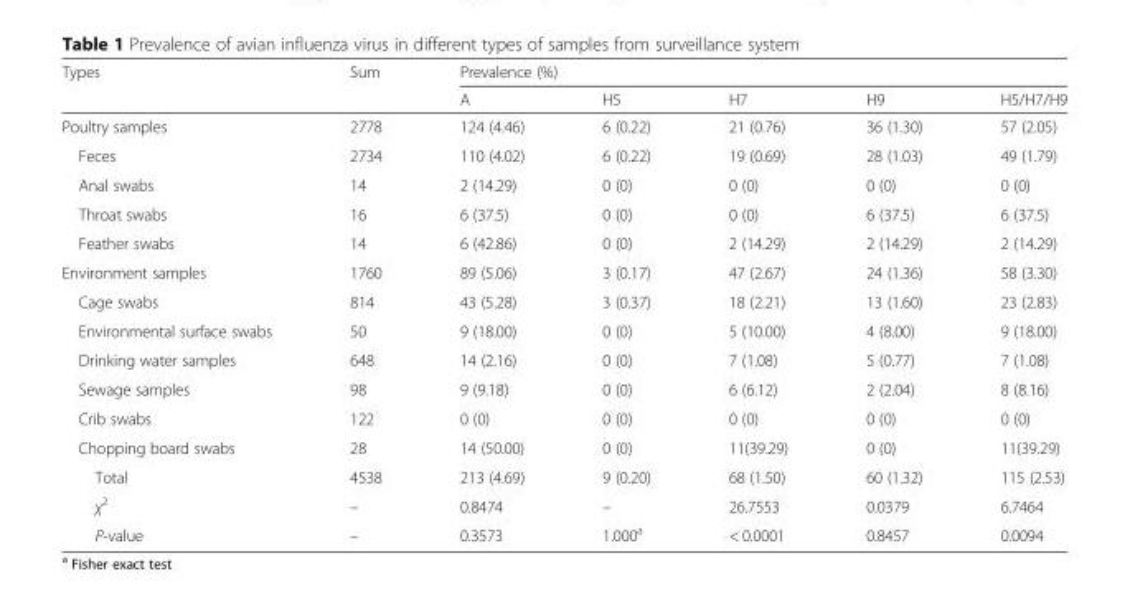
<table><thead><tr><td rowspan="2">Types</td><td rowspan="2">Sum</td><td colspan="5">Prevalence (%)</td></tr><tr><td>A</td><td>H5</td><td>H7</td><td>H9</td><td>H5/H7/H9</td></tr></thead><tbody><tr><td>Poultry samples</td><td>2778</td><td>124 (4.46)</td><td>6 (0.22)</td><td>21 (0.76)</td><td>36 (1.30)</td><td>57 (2.05)</td></tr><tr><td>Feces</td><td>2734</td><td>110 (4.02)</td><td>6 (0.22)</td><td>19 (0.69)</td><td>28 (1.03)</td><td>49 (1.79)</td></tr><tr><td>Anal swabs</td><td>14</td><td>2 (14.29)</td><td>0 (0)</td><td>0 (0)</td><td>0 (0)</td><td>0 (0)</td></tr><tr><td>Throat swabs</td><td>16</td><td>6 (37.5)</td><td>0 (0)</td><td>0 (0)</td><td>6 (37.5)</td><td>6 (37.5)</td></tr><tr><td>Feather swabs</td><td>14</td><td>6 (42.86)</td><td>0 (0)</td><td>2 (14.29)</td><td>2 (14.29)</td><td>2 (14.29)</td></tr><tr><td>Environment samples</td><td>1760</td><td>89 (5.06)</td><td>3 (0.17)</td><td>47 (2.67)</td><td>24 (1.36)</td><td>58 (3.30)</td></tr><tr><td>Cage swabs</td><td>814</td><td>43 (5.28)</td><td>3 (0.37)</td><td>18 (2.21)</td><td>13 (1.60)</td><td>23 (2.83)</td></tr><tr><td>Environmental surface swabs</td><td>50</td><td>9 (18.00)</td><td>0 (0)</td><td>5 (10.00)</td><td>4 (8.00)</td><td>9 (18.00)</td></tr><tr><td>Drinking water samples</td><td>648</td><td>14 (2.16)</td><td>0 (0)</td><td>7 (1.08)</td><td>5 (0.77)</td><td>7 (1.08)</td></tr><tr><td>Sewage samples</td><td>98</td><td>9 (9.18)</td><td>0 (0)</td><td>6 (6.12)</td><td>2 (2.04)</td><td>8 (8.16)</td></tr><tr><td>Crib swabs</td><td>122</td><td>0 (0)</td><td>0 (0)</td><td>0 (0)</td><td>0 (0)</td><td>0 (0)</td></tr><tr><td>Chopping board swabs</td><td>28</td><td>14 (50.00)</td><td>0 (0)</td><td>11(39.29)</td><td>0 (0)</td><td>11(39.29)</td></tr><tr><td>Total</td><td>4538</td><td>213 (4.69)</td><td>9 (0.20)</td><td>68 (1.50)</td><td>60 (1.32)</td><td>115 (2.53)</td></tr><tr><td>χ<sup>2</sup></td><td>–</td><td>0.8474</td><td>–</td><td>26.7553</td><td>0.0379</td><td>6.7464</td></tr><tr><td>P-value</td><td>–</td><td>0.3573</td><td>1.000<sup>a</sup></td><td>&lt; 0.0001</td><td>0.8457</td><td>0.0094</td></tr></tbody></table>